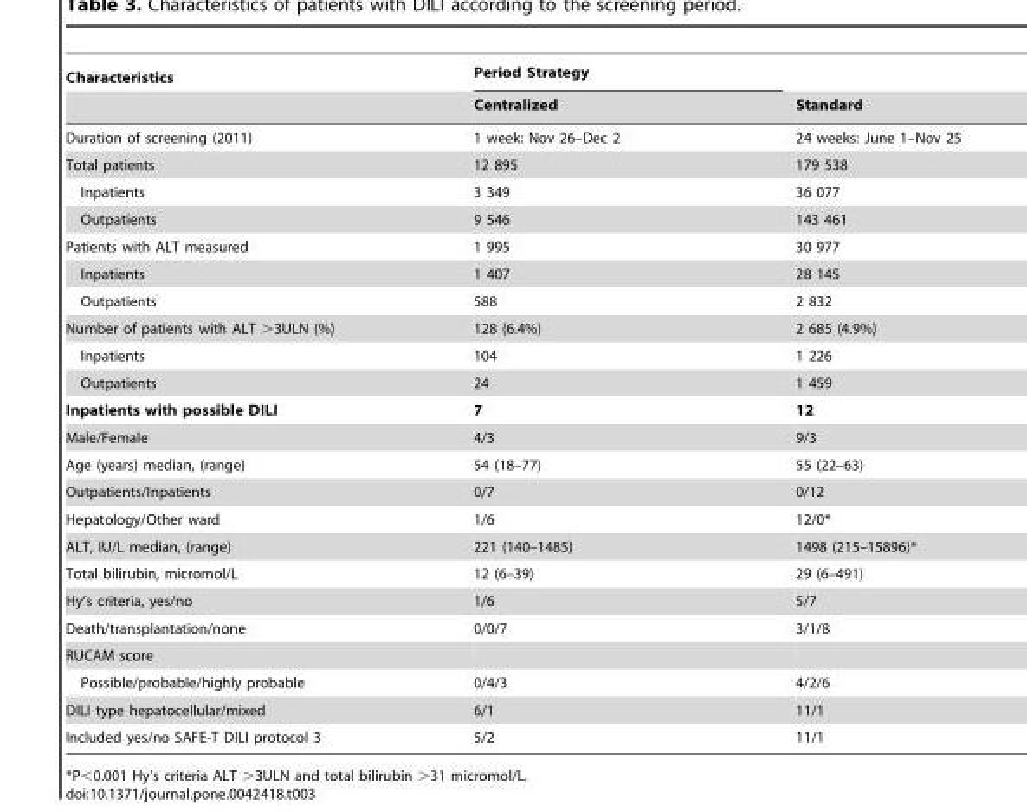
<table><thead><tr><td rowspan="2">Characteristics</td><td rowspan="2">Period Strategy Centralized</td><td rowspan="2">Standard</td></tr><tr></tr></thead><tbody><tr><td>Duration of screening (2011)</td><td>1 week: Nov 26–Dec 2</td><td>24 weeks: June 1–Nov 25</td></tr><tr><td>Total patients</td><td>12 895</td><td>179 538</td></tr><tr><td>Inpatients</td><td>3 349</td><td>36 077</td></tr><tr><td>Outpatients</td><td>9 546</td><td>143 461</td></tr><tr><td>Patients with ALT measured</td><td>1 995</td><td>30 977</td></tr><tr><td>Inpatients</td><td>1 407</td><td>28 145</td></tr><tr><td>Outpatients</td><td>588</td><td>2 832</td></tr><tr><td>Number of patients with ALT &gt;3ULN (%)</td><td>128 (6.4%)</td><td>2 685 (4.9%)</td></tr><tr><td>Inpatients</td><td>104</td><td>1 226</td></tr><tr><td>Outpatients</td><td>24</td><td>1 459</td></tr><tr><td>Inpatients with possible DILI</td><td>7</td><td>12</td></tr><tr><td>Male/Female</td><td>4/3</td><td>9/3</td></tr><tr><td>Age (years) median, (range)</td><td>54 (18–77)</td><td>55 (22–63)</td></tr><tr><td>Outpatients/Inpatients</td><td>0/7</td><td>0/12</td></tr><tr><td>Hepatology/Other ward</td><td>1/6</td><td>12/0*</td></tr><tr><td>ALT, IU/L median, (range)</td><td>221 (140–1485)</td><td>1498 (215–15896)*</td></tr><tr><td>Total bilirubin, micromol/L</td><td>12 (6–39)</td><td>29 (6–491)</td></tr><tr><td>Hy’s criteria, yes/no</td><td>1/6</td><td>5/7</td></tr><tr><td>Death/transplantation/none</td><td>0/0/7</td><td>3/1/8</td></tr><tr><td colspan="3">RUCAM score</td></tr><tr><td>Possible/probable/highly probable</td><td>0/4/3</td><td>4/2/6</td></tr><tr><td>DILI type hepatocellular/mixed</td><td>6/1</td><td>11/1</td></tr><tr><td>Included yes/no SAFE-T DILI protocol 3</td><td>5/2</td><td>11/1</td></tr></tbody></table>